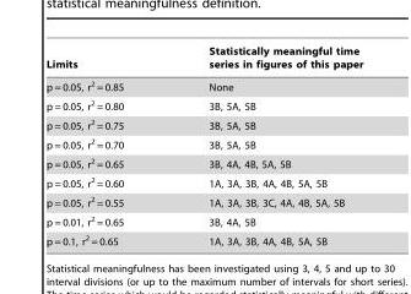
<table><thead><tr><td>Limits</td><td>Statistically meaningful time series in figures of this paper</td></tr></thead><tbody><tr><td>p = 0.05, r<sup>2</sup> = 0.85</td><td>None</td></tr><tr><td>p = 0.05, r<sup>2</sup> = 0.80</td><td>3B, 5A, 5B</td></tr><tr><td>p = 0.05, r<sup>2</sup> = 0.75</td><td>3B, 5A, 5B</td></tr><tr><td>p = 0.05, r<sup>2</sup> = 0.70</td><td>3B, 5A, 5B</td></tr><tr><td>p = 0.05, r<sup>2</sup> = 0.65</td><td>3B, 4A, 4B, 5A, 5B</td></tr><tr><td>p = 0.05, r<sup>2</sup> = 0.60</td><td>1A, 3A, 3B, 4A, 4B, 5A, 5B</td></tr><tr><td>p = 0.05, r<sup>2</sup> = 0.55</td><td>1A, 3A, 3B, 3C, 4A, 4B, 5A, 5B</td></tr><tr><td>p = 0.01, r<sup>2</sup> = 0.65</td><td>3B, 4A, 5B</td></tr><tr><td>p = 0.1, r<sup>2</sup> = 0.65</td><td>1A, 3A, 3B, 4A, 4B, 5A, 5B</td></tr></tbody></table>